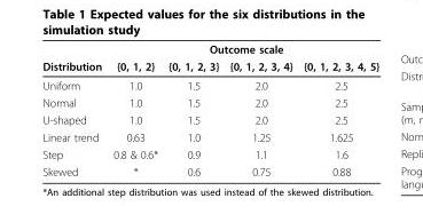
<table><thead><tr><td rowspan="2">Distribution</td><td colspan="4">Outcome scale</td></tr><tr><td>{0, 1, 2}</td><td>{0, 1, 2, 3}</td><td>{0, 1, 2, 3, 4}</td><td>{0, 1, 2, 3, 4, 5}</td></tr></thead><tbody><tr><td>Uniform</td><td>1.0</td><td>1.5</td><td>2.0</td><td>2.5</td></tr><tr><td>Normal</td><td>1.0</td><td>1.5</td><td>2.0</td><td>2.5</td></tr><tr><td>U-shaped</td><td>1.0</td><td>1.5</td><td>2.0</td><td>2.5</td></tr><tr><td>Linear trend</td><td>0.63</td><td>1.0</td><td>1.25</td><td>1.625</td></tr><tr><td>Step</td><td>0.8 &amp; 0.6*</td><td>0.9</td><td>1.1</td><td>1.6</td></tr><tr><td>Skewed</td><td>*</td><td>0.6</td><td>0.75</td><td>0.88</td></tr></tbody></table>